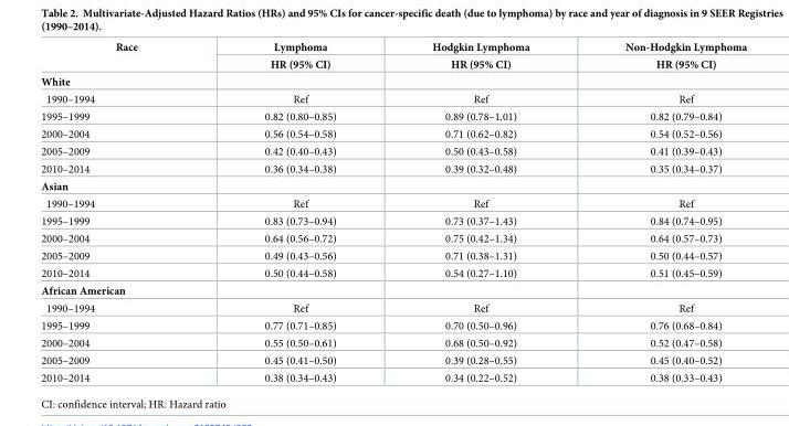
<table><thead><tr><td rowspan="2">Race</td><td rowspan="2">Lymphoma HR (95% CI)</td><td rowspan="2">Hodgkin Lymphoma HR (95% CI)</td><td rowspan="2">Non-Hodgkin Lymphoma HR (95% CI)</td></tr><tr></tr></thead><tbody><tr><td colspan="4">White</td></tr><tr><td>1990–1994</td><td>Ref</td><td>Ref</td><td>Ref</td></tr><tr><td>1995–1999</td><td>0.82 (0.80–0.85)</td><td>0.89 (0.78–1.01)</td><td>0.82 (0.79–0.84)</td></tr><tr><td>2000–2004</td><td>0.56 (0.54–0.58)</td><td>0.71 (0.62–0.82)</td><td>0.54 (0.52–0.56)</td></tr><tr><td>2005–2009</td><td>0.42 (0.40–0.43)</td><td>0.50 (0.43–0.58)</td><td>0.41 (0.39–0.43)</td></tr><tr><td>2010–2014</td><td>0.36 (0.34–0.38)</td><td>0.39 (0.32–0.48)</td><td>0.35 (0.34–0.37)</td></tr><tr><td colspan="4">Asian</td></tr><tr><td>1990–1994</td><td>Ref</td><td>Ref</td><td>Ref</td></tr><tr><td>1995–1999</td><td>0.83 (0.73–0.94)</td><td>0.73 (0.37–1.43)</td><td>0.84 (0.74–0.95)</td></tr><tr><td>2000–2004</td><td>0.64 (0.56–0.72)</td><td>0.75 (0.42–1.34)</td><td>0.64 (0.57–0.73)</td></tr><tr><td>2005–2009</td><td>0.49 (0.43–0.56)</td><td>0.71 (0.38–1.31)</td><td>0.50 (0.44–0.57)</td></tr><tr><td>2010–2014</td><td>0.50 (0.44–0.58)</td><td>0.54 (0.27–1.10)</td><td>0.51 (0.45–0.59)</td></tr><tr><td colspan="4">African American</td></tr><tr><td>1990–1994</td><td>Ref</td><td>Ref</td><td>Ref</td></tr><tr><td>1995–1999</td><td>0.77 (0.71–0.85)</td><td>0.70 (0.50–0.96)</td><td>0.76 (0.68–0.84)</td></tr><tr><td>2000–2004</td><td>0.55 (0.50–0.61)</td><td>0.68 (0.50–0.92)</td><td>0.52 (0.47–0.58)</td></tr><tr><td>2005–2009</td><td>0.45 (0.41–0.50)</td><td>0.39 (0.28–0.55)</td><td>0.45 (0.40–0.52)</td></tr><tr><td>2010–2014</td><td>0.38 (0.34–0.43)</td><td>0.34 (0.22–0.52)</td><td>0.38 (0.33–0.43)</td></tr></tbody></table>